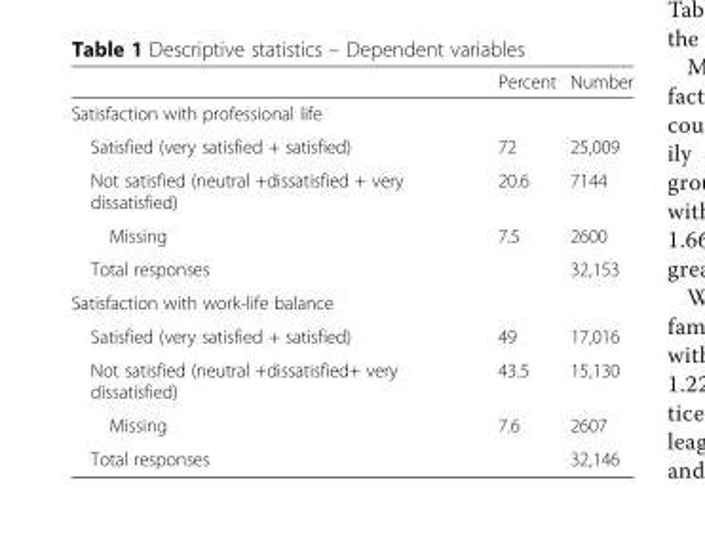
<table><thead><tr><td></td><td>Percent</td><td>Number</td></tr></thead><tbody><tr><td colspan="3">Satisfaction with professional life</td></tr><tr><td>Satisfied (very satisfied + satisfied)</td><td>72</td><td>25,009</td></tr><tr><td>Not satisfied (neutral +dissatisfied + very dissatisfied)</td><td>20.6</td><td>7144</td></tr><tr><td>Missing</td><td>7.5</td><td>2600</td></tr><tr><td>Total responses</td><td></td><td>32,153</td></tr><tr><td colspan="3">Satisfaction with work-life balance</td></tr><tr><td>Satisfied (very satisfied + satisfied)</td><td>49</td><td>17,016</td></tr><tr><td>Not satisfied (neutral +dissatisfied+ very dissatisfied)</td><td>43.5</td><td>15,130</td></tr><tr><td>Missing</td><td>7.6</td><td>2607</td></tr><tr><td>Total responses</td><td></td><td>32,146</td></tr></tbody></table>